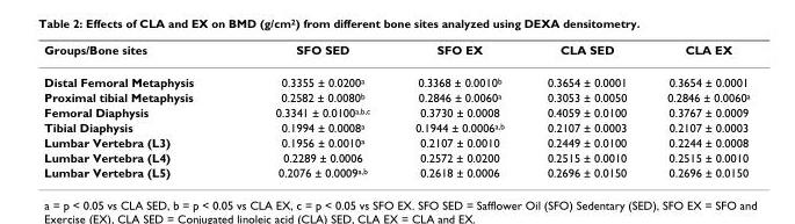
<table><thead><tr><td>Groups/Bone sites</td><td>SFO SED</td><td>SFO EX</td><td>CLA SED</td><td>CLA EX</td></tr></thead><tbody><tr><td>Distal Femoral Metaphysis</td><td>0.3355 ± 0.0200<sup>a</sup></td><td>0.3368 ± 0.0010<sup>b</sup></td><td>0.3654 ± 0.0001</td><td>0.3654 ± 0.0001</td></tr><tr><td>Proximal tibial Metaphysis</td><td>0.2582 ± 0.0080<sup>b</sup></td><td>0.2846 ± 0.0060<sup>a</sup></td><td>0.3053 ± 0.0050</td><td>0.2846 ± 0.0060<sup>a</sup></td></tr><tr><td>Femoral Diaphysis</td><td>0.3341 ± 0.0100<sup>a,b,c</sup></td><td>0.3730 ± 0.0008</td><td>0.4059 ± 0.0100</td><td>0.3767 ± 0.0009</td></tr><tr><td>Tibial Diaphysis</td><td>0.1994 ± 0.0008<sup>a</sup></td><td>0.1944 ± 0.0006<sup>a,b</sup></td><td>0.2107 ± 0.0003</td><td>0.2107 ± 0.0003</td></tr><tr><td>Lumbar Vertebra (L3)</td><td>0.1956 ± 0.0010<sup>a</sup></td><td>0.2107 ± 0.0010</td><td>0.2449 ± 0.0100</td><td>0.2244 ± 0.0008</td></tr><tr><td>Lumbar Vertebra (L4)</td><td>0.2289 ± 0.0006</td><td>0.2572 ± 0.0200</td><td>0.2515 ± 0.0010</td><td>0.2515 ± 0.0010</td></tr><tr><td>Lumbar Vertebra (L5)</td><td>0.2076 ± 0.0009<sup>a,b</sup></td><td>0.2618 ± 0.0006</td><td>0.2696 ± 0.0150</td><td>0.2696 ± 0.0150</td></tr></tbody></table>